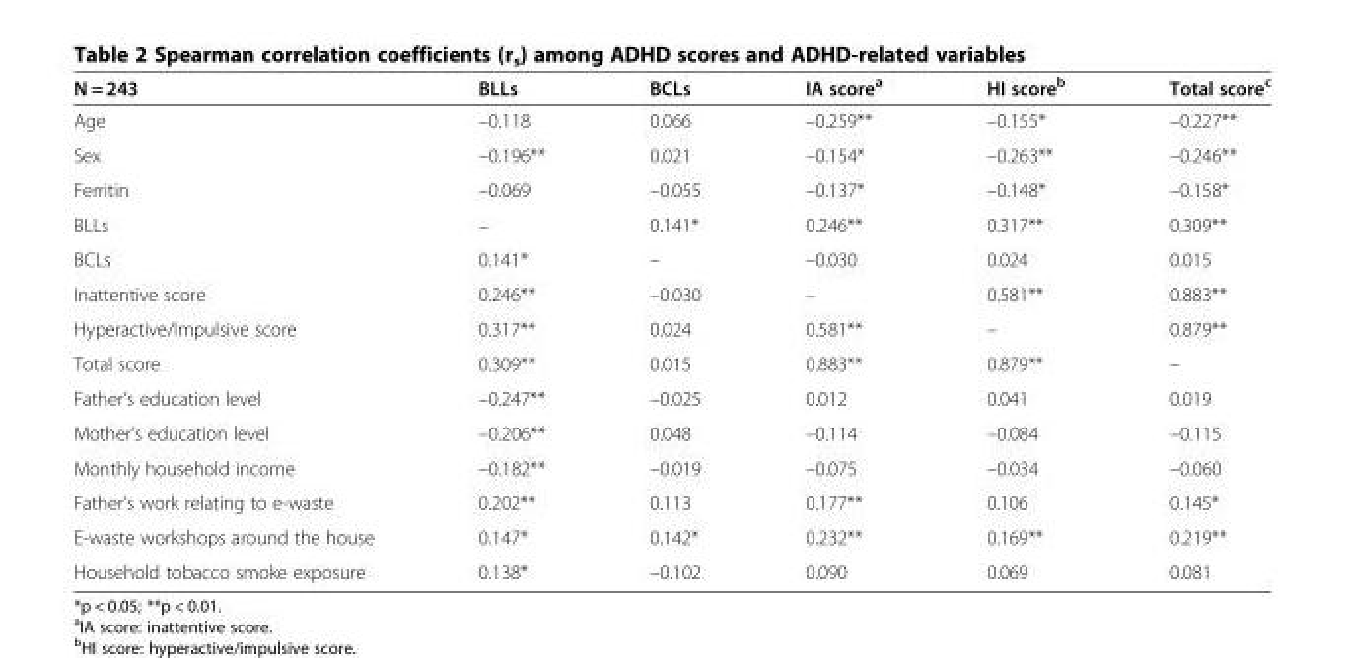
<table><thead><tr><td>N = 243</td><td>BLLs</td><td>BCLs</td><td>IA score<sup>a</sup></td><td>HI score<sup>b</sup></td><td>Total score<sup>c</sup></td></tr></thead><tbody><tr><td>Age</td><td>–0.118</td><td>0.066</td><td>–0.259**</td><td>–0.155*</td><td>–0.227**</td></tr><tr><td>Sex</td><td>–0.196**</td><td>0.021</td><td>–0.154*</td><td>–0.263**</td><td>–0.246**</td></tr><tr><td>Ferritin</td><td>–0.069</td><td>–0.055</td><td>–0.137*</td><td>–0.148*</td><td>–0.158*</td></tr><tr><td>BLLs</td><td>–</td><td>0.141*</td><td>0.246**</td><td>0.317**</td><td>0.309**</td></tr><tr><td>BCLs</td><td>0.141*</td><td>–</td><td>–0.030</td><td>0.024</td><td>0.015</td></tr><tr><td>Inattentive score</td><td>0.246**</td><td>–0.030</td><td>–</td><td>0.581**</td><td>0.883**</td></tr><tr><td>Hyperactive/Impulsive score</td><td>0.317**</td><td>0.024</td><td>0.581**</td><td>–</td><td>0.879**</td></tr><tr><td>Total score</td><td>0.309**</td><td>0.015</td><td>0.883**</td><td>0.879**</td><td>–</td></tr><tr><td>Father’s education level</td><td>–0.247**</td><td>–0.025</td><td>0.012</td><td>0.041</td><td>0.019</td></tr><tr><td>Mother’s education level</td><td>–0.206**</td><td>0.048</td><td>–0.114</td><td>–0.084</td><td>–0.115</td></tr><tr><td>Monthly household income</td><td>–0.182**</td><td>–0.019</td><td>–0.075</td><td>–0.034</td><td>–0.060</td></tr><tr><td>Father’s work relating to e-waste</td><td>0.202**</td><td>0.113</td><td>0.177**</td><td>0.106</td><td>0.145*</td></tr><tr><td>E-waste workshops around the house</td><td>0.147*</td><td>0.142*</td><td>0.232**</td><td>0.169**</td><td>0.219**</td></tr><tr><td>Household tobacco smoke exposure</td><td>0.138*</td><td>–0.102</td><td>0.090</td><td>0.069</td><td>0.081</td></tr></tbody></table>